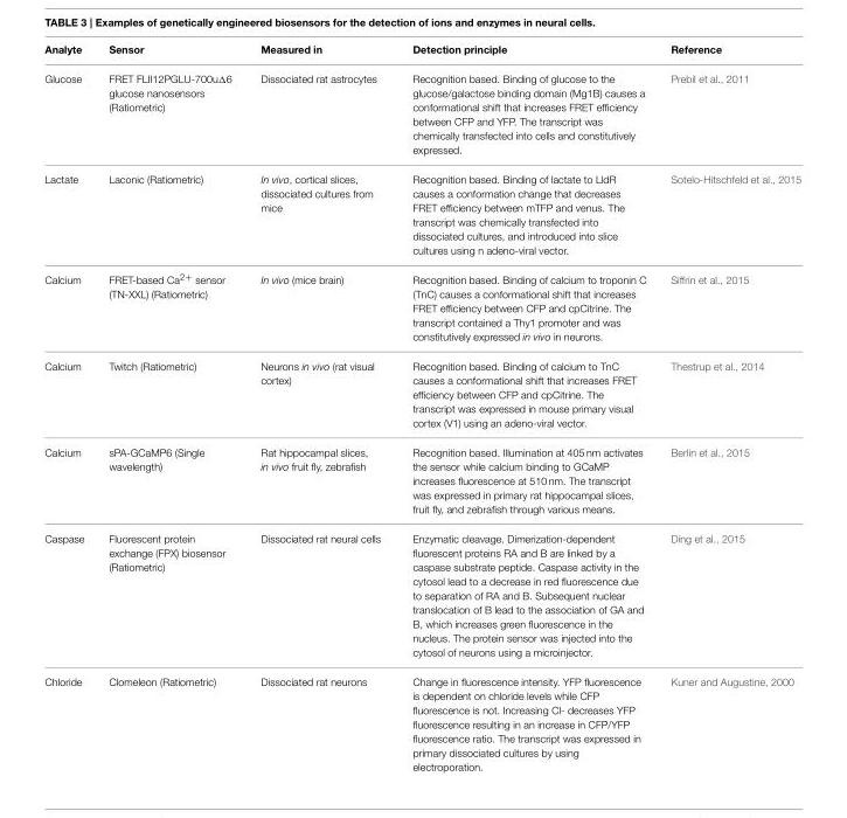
<table><thead><tr><td>Analyte</td><td>Sensor</td><td>Measured in</td><td>Detection principle</td><td>Reference</td></tr></thead><tbody><tr><td>Glucose</td><td>FRET FLII12PGLU-700uΔ6 glucose nanosensors (Ratiometric)</td><td>Dissociated rat astrocytes</td><td>Recognition based. Binding of glucose to the glucose/galactose binding domain (Mg1B) causes a conformational shift that increases FRET efficiency between CFP and YFP. The transcript was chemically transfected into cells and constitutively expressed.</td><td>Prebil et al., 2011</td></tr><tr><td>Lactate</td><td>Laconic (Ratiometric)</td><td>In vivo, cortical slices, dissociated cultures from mice</td><td>Recognition based. Binding of lactate to LldR causes a conformation change that decreases FRET efficiency between mTFP and venus. The transcript was chemically transfected into dissociated cultures, and introduced into slice cultures using n adeno-viral vector.</td><td>Sotelo-Hitschfeld et al., 2015</td></tr><tr><td>Calcium</td><td>FRET-based Ca<sup>2+</sup> sensor (TN-XXL) (Ratiometric)</td><td>In vivo (mice brain)</td><td>Recognition based. Binding of calcium to troponin C (TnC) causes a conformational shift that increases FRET efficiency between CFP and cpCitrine. The transcript contained a Thy1 promoter and was constitutively expressed in vivo in neurons.</td><td>Siffrin et al., 2015</td></tr><tr><td>Calcium</td><td>Twitch (Ratiometric)</td><td>Neurons in vivo (rat visual cortex)</td><td>Recognition based. Binding of calcium to TnC causes a conformational shift that increases FRET efficiency between CFP and cpCitrine. The transcript was expressed in mouse primary visual cortex (V1) using an adeno-viral vector.</td><td>Thestrup et al., 2014</td></tr><tr><td>Calcium</td><td>sPA-GCaMP6 (Single wavelength)</td><td>Rat hippocampal slices, in vivo fruit fly, zebrafish</td><td>Recognition based. Illumination at 405 nm activates the sensor while calcium binding to GCaMP increases fluorescence at 510 nm. The transcript was expressed in primary rat hippocampal slices, fruit fly, and zebrafish through various means.</td><td>Berlin et al., 2015</td></tr><tr><td>Caspase</td><td>Fluorescent protein exchange (FPX) biosensor (Ratiometric)</td><td>Dissociated rat neural cells</td><td>Enzymatic cleavage. Dimerization-dependent fluorescent proteins RA and B are linked by a caspase substrate peptide. Caspase activity in the cytosol lead to a decrease in red fluorescence due to separation of RA and B. Subsequent nuclear translocation of B lead to the association of GA and B, which increases green fluorescence in the nucleus. The protein sensor was injected into the cytosol of neurons using a microinjector.</td><td>Ding et al., 2015</td></tr><tr><td>Chloride</td><td>Clomeleon (Ratiometric)</td><td>Dissociated rat neurons</td><td>Change in fluorescence intensity. YFP fluorescence is dependent on chloride levels while CFP fluorescence is not. Increasing Cl- decreases YFP fluorescence resulting in an increase in CFP/YFP fluorescence ratio. The transcript was expressed in primary dissociated cultures by using electroporation.</td><td>Kuner and Augustine, 2000</td></tr></tbody></table>